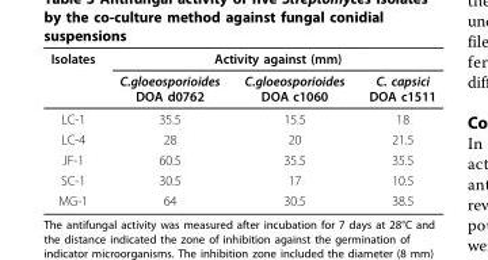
<table><thead><tr><td rowspan="2">Isolates</td><td colspan="3">Activity against (mm)</td></tr><tr><td>C.gloeosporioides DOA d0762</td><td>C.gloeosporioides DOA c1060</td><td>C. capsici DOA c1511</td></tr></thead><tbody><tr><td>LC-1</td><td>35.5</td><td>15.5</td><td>18</td></tr><tr><td>LC-4</td><td>28</td><td>20</td><td>21.5</td></tr><tr><td>JF-1</td><td>60.5</td><td>35.5</td><td>35.5</td></tr><tr><td>SC-1</td><td>30.5</td><td>17</td><td>10.5</td></tr><tr><td>MG-1</td><td>64</td><td>30.5</td><td>38.5</td></tr></tbody></table>